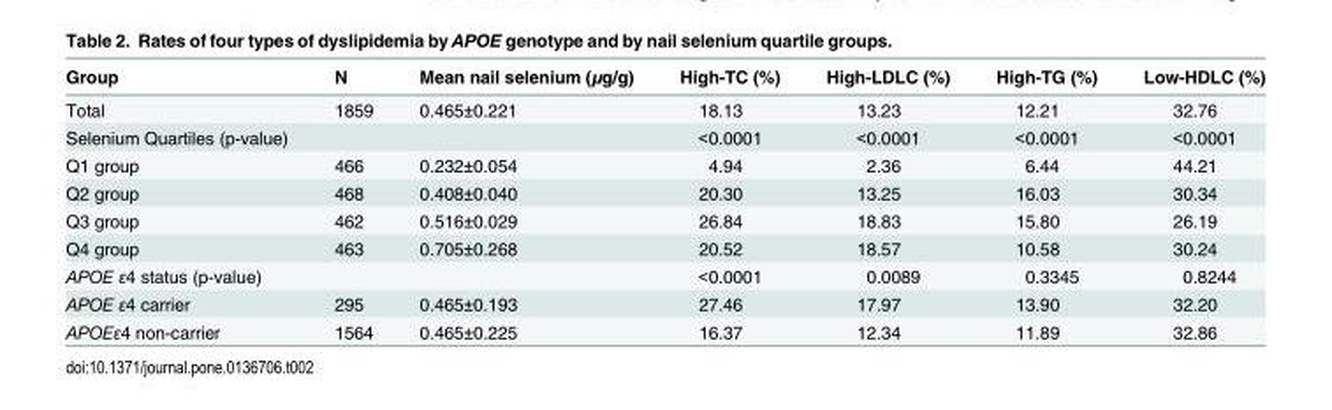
<table><thead><tr><td>Group</td><td>N</td><td>Mean nail selenium (μg/g)</td><td>High-TC (%)</td><td>High-LDLC (%)</td><td>High-TG (%)</td><td>Low-HDLC (%)</td></tr></thead><tbody><tr><td>Total</td><td>1859</td><td>0.465±0.221</td><td>18.13</td><td>13.23</td><td>12.21</td><td>32.76</td></tr><tr><td>Selenium Quartiles (p-value)</td><td></td><td></td><td>&lt;0.0001</td><td>&lt;0.0001</td><td>&lt;0.0001</td><td>&lt;0.0001</td></tr><tr><td>Q1 group</td><td>466</td><td>0.232±0.054</td><td>4.94</td><td>2.36</td><td>6.44</td><td>44.21</td></tr><tr><td>Q2 group</td><td>468</td><td>0.408±0.040</td><td>20.30</td><td>13.25</td><td>16.03</td><td>30.34</td></tr><tr><td>Q3 group</td><td>462</td><td>0.516±0.029</td><td>26.84</td><td>18.83</td><td>15.80</td><td>26.19</td></tr><tr><td>Q4 group</td><td>463</td><td>0.705±0.268</td><td>20.52</td><td>18.57</td><td>10.58</td><td>30.24</td></tr><tr><td>APOE ε4 status (p-value)</td><td></td><td></td><td>&lt;0.0001</td><td>0.0089</td><td>0.3345</td><td>0.8244</td></tr><tr><td>APOE ε4 carrier</td><td>295</td><td>0.465±0.193</td><td>27.46</td><td>17.97</td><td>13.90</td><td>32.20</td></tr><tr><td>APOEε4 non-carrier</td><td>1564</td><td>0.465±0.225</td><td>16.37</td><td>12.34</td><td>11.89</td><td>32.86</td></tr></tbody></table>